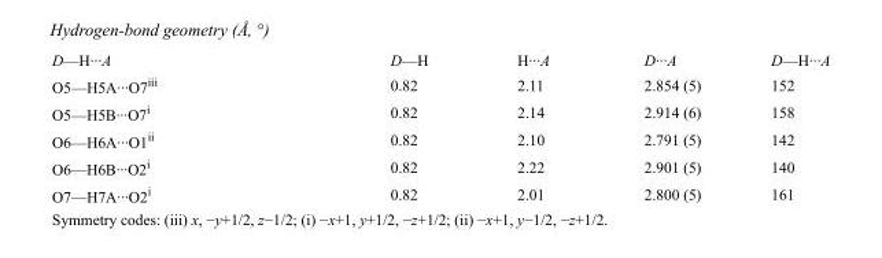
<table><tbody><tr><td>D—H···A</td><td>D—H</td><td>H···A</td><td>D···A</td><td>D—H···A</td></tr><tr><td>O5—H5A···O7<sup>iii</sup></td><td>0.82</td><td>2.11</td><td>2.854 (5)</td><td>152</td></tr><tr><td>O5—H5B···O7<sup>i</sup></td><td>0.82</td><td>2.14</td><td>2.914 (6)</td><td>158</td></tr><tr><td>O6—H6A···O1<sup>ii</sup></td><td>0.82</td><td>2.10</td><td>2.791 (5)</td><td>142</td></tr><tr><td>O6—H6B···O2<sup>i</sup></td><td>0.82</td><td>2.22</td><td>2.901 (5)</td><td>140</td></tr><tr><td>O7—H7A···O2<sup>i</sup></td><td>0.82</td><td>2.01</td><td>2.800 (5)</td><td>161</td></tr></tbody></table>